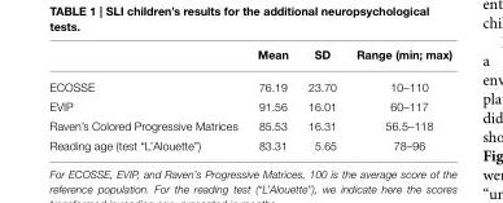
<table><thead><tr><td></td><td>Mean</td><td>SD</td><td>Range (min; max)</td></tr></thead><tbody><tr><td>ECOSSE</td><td>76.19</td><td>23.70</td><td>10–110</td></tr><tr><td>EVIP</td><td>91.56</td><td>16.01</td><td>60–117</td></tr><tr><td>Raven’s Colored Progressive Matrices</td><td>85.53</td><td>16.31</td><td>56.5–118</td></tr><tr><td>Reading age (test “L’Alouette”)</td><td>83.31</td><td>5.65</td><td>78–96</td></tr></tbody></table>